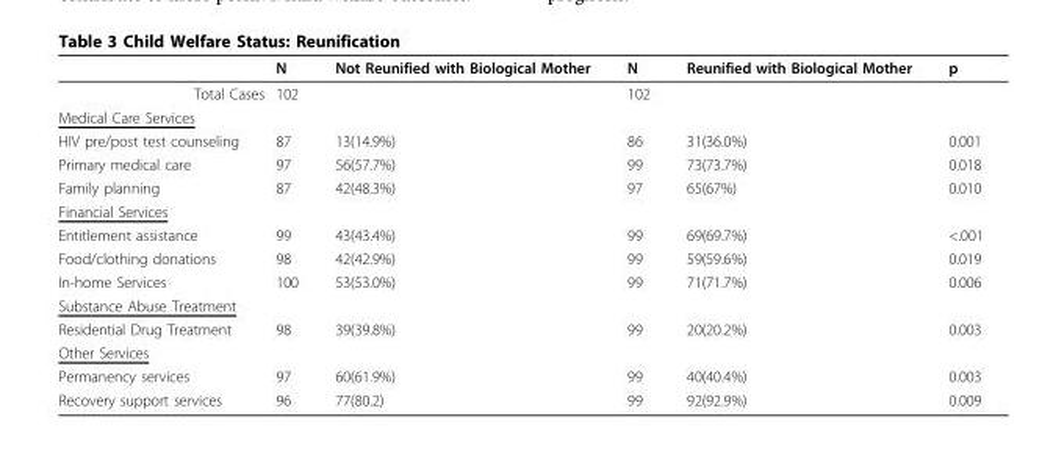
<table><thead><tr><td></td><td>N</td><td>Not Reunified with Biological Mother</td><td>N</td><td>Reunified with Biological Mother</td><td>p</td></tr></thead><tbody><tr><td>Total Cases</td><td>102</td><td></td><td>102</td><td></td><td></td></tr><tr><td colspan="6">Medical Care Services</td></tr><tr><td>HIV pre/post test counseling</td><td>87</td><td>13(14.9%)</td><td>86</td><td>31(36.0%)</td><td>0.001</td></tr><tr><td>Primary medical care</td><td>97</td><td>56(57.7%)</td><td>99</td><td>73(73.7%)</td><td>0.018</td></tr><tr><td>Family planning</td><td>87</td><td>42(48.3%)</td><td>97</td><td>65(67%)</td><td>0.010</td></tr><tr><td colspan="6">Financial Services</td></tr><tr><td>Entitlement assistance</td><td>99</td><td>43(43.4%)</td><td>99</td><td>69(69.7%)</td><td>&lt;.001</td></tr><tr><td>Food/clothing donations</td><td>98</td><td>42(42.9%)</td><td>99</td><td>59(59.6%)</td><td>0.019</td></tr><tr><td>In-home Services</td><td>100</td><td>53(53.0%)</td><td>99</td><td>71(71.7%)</td><td>0.006</td></tr><tr><td colspan="6">Substance Abuse Treatment</td></tr><tr><td>Residential Drug Treatment</td><td>98</td><td>39(39.8%)</td><td>99</td><td>20(20.2%)</td><td>0.003</td></tr><tr><td colspan="6">Other Services</td></tr><tr><td>Permanency services</td><td>97</td><td>60(61.9%)</td><td>99</td><td>40(40.4%)</td><td>0.003</td></tr><tr><td>Recovery support services</td><td>96</td><td>77(80.2)</td><td>99</td><td>92(92.9%)</td><td>0.009</td></tr></tbody></table>